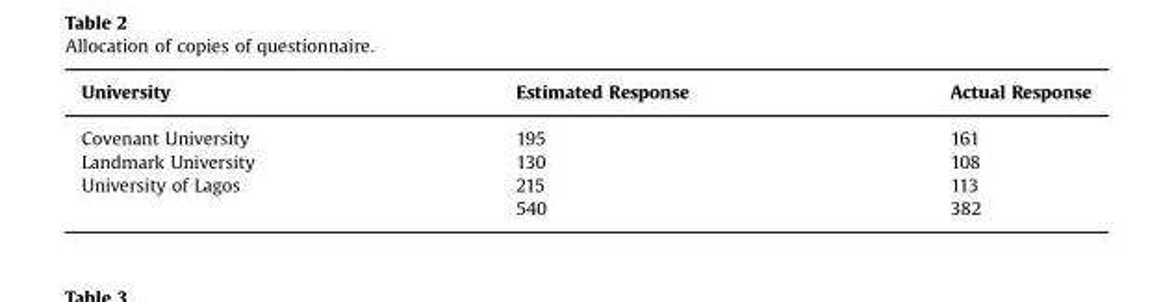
<table><thead><tr><td>University</td><td>Estimated Response</td><td>Actual Response</td></tr></thead><tbody><tr><td>Covenant University</td><td>195</td><td>161</td></tr><tr><td>Landmark University</td><td>130</td><td>108</td></tr><tr><td rowspan="2">University of Lagos</td><td>215</td><td>113</td></tr><tr><td>540</td><td>382</td></tr></tbody></table>